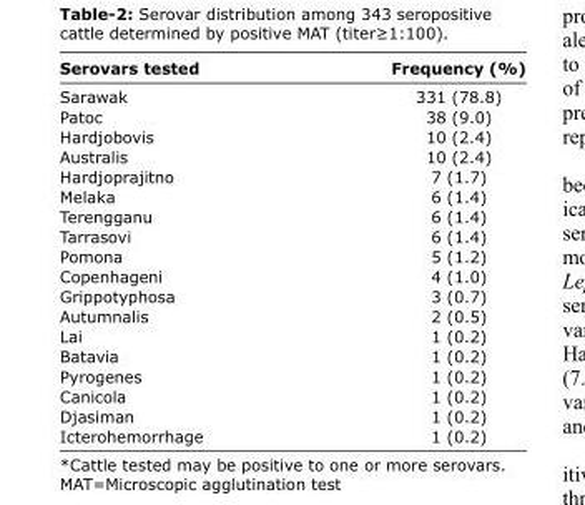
<table><thead><tr><td>Serovars tested</td><td>Frequency (%)</td></tr></thead><tbody><tr><td>Sarawak</td><td>331 (78.8)</td></tr><tr><td>Patoc</td><td>38 (9.0)</td></tr><tr><td>Hardjobovis</td><td>10 (2.4)</td></tr><tr><td>Australis</td><td>10 (2.4)</td></tr><tr><td>Hardjoprajitno</td><td>7 (1.7)</td></tr><tr><td>Melaka</td><td>6 (1.4)</td></tr><tr><td>Terengganu</td><td>6 (1.4)</td></tr><tr><td>Tarrasovi</td><td>6 (1.4)</td></tr><tr><td>Pomona</td><td>5 (1.2)</td></tr><tr><td>Copenhageni</td><td>4 (1.0)</td></tr><tr><td>Grippotyphosa</td><td>3 (0.7)</td></tr><tr><td>Autumnalis</td><td>2 (0.5)</td></tr><tr><td>Lai</td><td>1 (0.2)</td></tr><tr><td>Batavia</td><td>1 (0.2)</td></tr><tr><td>Pyrogenes</td><td>1 (0.2)</td></tr><tr><td>Canicola</td><td>1 (0.2)</td></tr><tr><td>Djasiman</td><td>1 (0.2)</td></tr><tr><td>Icterohemorrhage</td><td>1 (0.2)</td></tr></tbody></table>